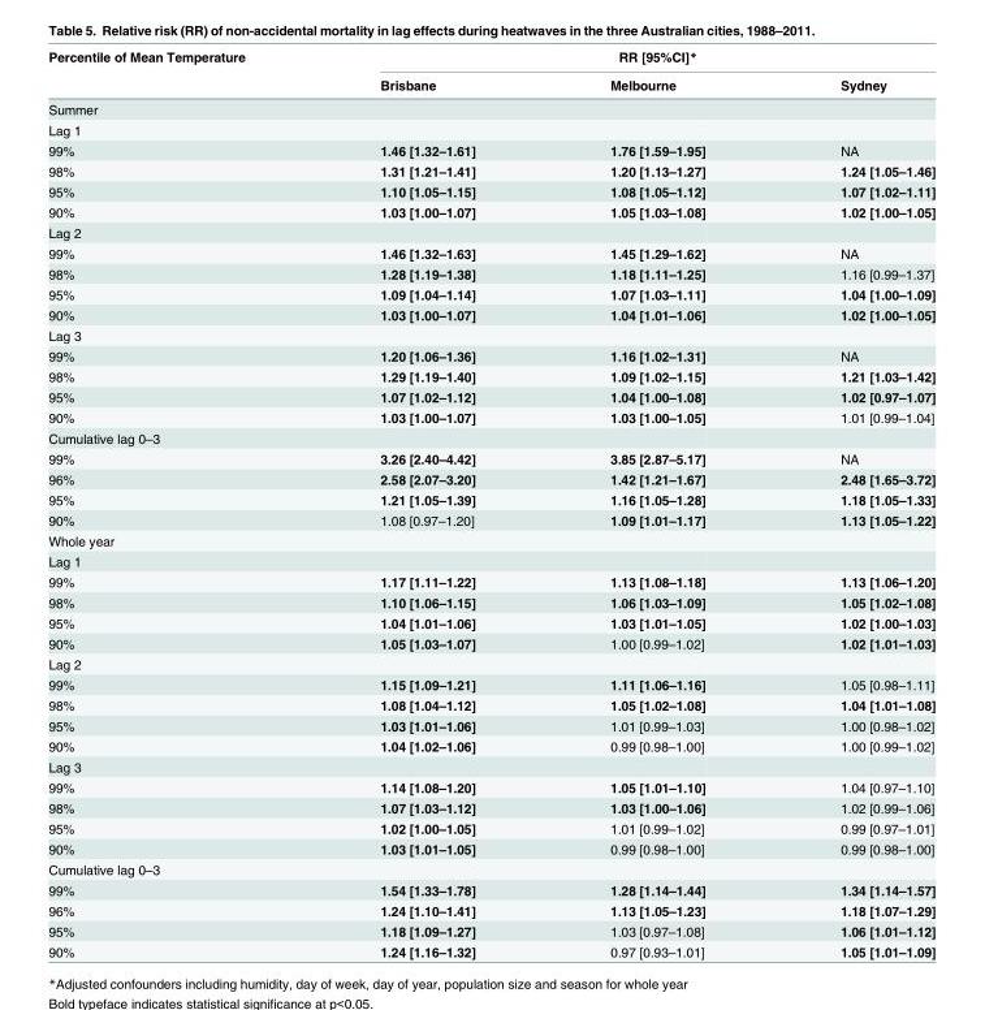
<table><thead><tr><td rowspan="2">Percentile of Mean Temperature</td><td colspan="3">RR [95%CI]*</td></tr><tr><td>Brisbane</td><td>Melbourne</td><td>Sydney</td></tr></thead><tbody><tr><td colspan="4">Summer</td></tr><tr><td colspan="4">Lag 1</td></tr><tr><td>99%</td><td>1.46 [1.32–1.61]</td><td>1.76 [1.59–1.95]</td><td>NA</td></tr><tr><td>98%</td><td>1.31 [1.21–1.41]</td><td>1.20 [1.13–1.27]</td><td>1.24 [1.05–1.46]</td></tr><tr><td>95%</td><td>1.10 [1.05–1.15]</td><td>1.08 [1.05–1.12]</td><td>1.07 [1.02–1.11]</td></tr><tr><td>90%</td><td>1.03 [1.00–1.07]</td><td>1.05 [1.03–1.08]</td><td>1.02 [1.00–1.05]</td></tr><tr><td colspan="4">Lag 2</td></tr><tr><td>99%</td><td>1.46 [1.32–1.63]</td><td>1.45 [1.29–1.62]</td><td>NA</td></tr><tr><td>98%</td><td>1.28 [1.19–1.38]</td><td>1.18 [1.11–1.25]</td><td>1.16 [0.99–1.37]</td></tr><tr><td>95%</td><td>1.09 [1.04–1.14]</td><td>1.07 [1.03–1.11]</td><td>1.04 [1.00–1.09]</td></tr><tr><td>90%</td><td>1.03 [1.00–1.07]</td><td>1.04 [1.01–1.06]</td><td>1.02 [1.00–1.05]</td></tr><tr><td colspan="4">Lag 3</td></tr><tr><td>99%</td><td>1.20 [1.06–1.36]</td><td>1.16 [1.02–1.31]</td><td>NA</td></tr><tr><td>98%</td><td>1.29 [1.19–1.40]</td><td>1.09 [1.02–1.15]</td><td>1.21 [1.03–1.42]</td></tr><tr><td>95%</td><td>1.07 [1.02–1.12]</td><td>1.04 [1.00–1.08]</td><td>1.02 [0.97–1.07]</td></tr><tr><td>90%</td><td>1.03 [1.00–1.07]</td><td>1.03 [1.00–1.05]</td><td>1.01 [0.99–1.04]</td></tr><tr><td colspan="4">Cumulative lag 0–3</td></tr><tr><td>99%</td><td>3.26 [2.40–4.42]</td><td>3.85 [2.87–5.17]</td><td>NA</td></tr><tr><td>96%</td><td>2.58 [2.07–3.20]</td><td>1.42 [1.21–1.67]</td><td>2.48 [1.65–3.72]</td></tr><tr><td>95%</td><td>1.21 [1.05–1.39]</td><td>1.16 [1.05–1.28]</td><td>1.18 [1.05–1.33]</td></tr><tr><td>90%</td><td>1.08 [0.97–1.20]</td><td>1.09 [1.01–1.17]</td><td>1.13 [1.05–1.22]</td></tr><tr><td colspan="4">Whole year</td></tr><tr><td colspan="4">Lag 1</td></tr><tr><td>99%</td><td>1.17 [1.11–1.22]</td><td>1.13 [1.08–1.18]</td><td>1.13 [1.06–1.20]</td></tr><tr><td>98%</td><td>1.10 [1.06–1.15]</td><td>1.06 [1.03–1.09]</td><td>1.05 [1.02–1.08]</td></tr><tr><td>95%</td><td>1.04 [1.01–1.06]</td><td>1.03 [1.01–1.05]</td><td>1.02 [1.00–1.03]</td></tr><tr><td>90%</td><td>1.05 [1.03–1.07]</td><td>1.00 [0.99–1.02]</td><td>1.02 [1.01–1.03]</td></tr><tr><td colspan="4">Lag 2</td></tr><tr><td>99%</td><td>1.15 [1.09–1.21]</td><td>1.11 [1.06–1.16]</td><td>1.05 [0.98–1.11]</td></tr><tr><td>98%</td><td>1.08 [1.04–1.12]</td><td>1.05 [1.02–1.08]</td><td>1.04 [1.01–1.08]</td></tr><tr><td>95%</td><td>1.03 [1.01–1.06]</td><td>1.01 [0.99–1.03]</td><td>1.00 [0.98–1.02]</td></tr><tr><td>90%</td><td>1.04 [1.02–1.06]</td><td>0.99 [0.98–1.00]</td><td>1.00 [0.99–1.02]</td></tr><tr><td colspan="4">Lag 3</td></tr><tr><td>99%</td><td>1.14 [1.08–1.20]</td><td>1.05 [1.01–1.10]</td><td>1.04 [0.97–1.10]</td></tr><tr><td>98%</td><td>1.07 [1.03–1.12]</td><td>1.03 [1.00–1.06]</td><td>1.02 [0.99–1.06]</td></tr><tr><td>95%</td><td>1.02 [1.00–1.05]</td><td>1.01 [0.99–1.02]</td><td>0.99 [0.97–1.01]</td></tr><tr><td>90%</td><td>1.03 [1.01–1.05]</td><td>0.99 [0.98–1.00]</td><td>0.99 [0.98–1.00]</td></tr><tr><td colspan="4">Cumulative lag 0–3</td></tr><tr><td>99%</td><td>1.54 [1.33–1.78]</td><td>1.28 [1.14–1.44]</td><td>1.34 [1.14–1.57]</td></tr><tr><td>96%</td><td>1.24 [1.10–1.41]</td><td>1.13 [1.05–1.23]</td><td>1.18 [1.07–1.29]</td></tr><tr><td>95%</td><td>1.18 [1.09–1.27]</td><td>1.03 [0.97–1.08]</td><td>1.06 [1.01–1.12]</td></tr><tr><td>90%</td><td>1.24 [1.16–1.32]</td><td>0.97 [0.93–1.01]</td><td>1.05 [1.01–1.09]</td></tr></tbody></table>